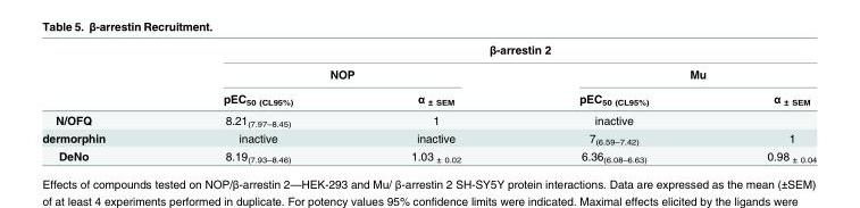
<table><thead><tr><td rowspan="3"></td><td colspan="4">β-arrestin 2</td></tr><tr><td colspan="2">NOP</td><td colspan="2">Mu</td></tr><tr><td>pEC<sub>50 (CL95%)</sub></td><td>α <sub>± SEM</sub></td><td>pEC<sub>50 (CL95%)</sub></td><td>α <sub>± SEM</sub></td></tr></thead><tbody><tr><td>N/OFQ</td><td>8.21<sub>(7.97–8.45)</sub></td><td>1</td><td>inactive</td><td></td></tr><tr><td>dermorphin</td><td>inactive</td><td>inactive</td><td>7<sub>(6.59–7.42)</sub></td><td>1</td></tr><tr><td>DeNo</td><td>8.19<sub>(7.93–8.46)</sub></td><td>1.03 <sub>± 0.02</sub></td><td>6.36<sub>(6.08–6.63)</sub></td><td>0.98 <sub>± 0.04</sub></td></tr></tbody></table>